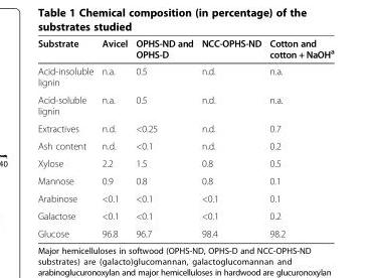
<table><thead><tr><td>Substrate</td><td>Avicel</td><td>OPHS-ND and OPHS-D</td><td>NCC-OPHS-ND</td><td>Cotton and cotton + NaOH<sup>a</sup></td></tr></thead><tbody><tr><td>Acid-insoluble lignin</td><td>n.a.</td><td>0.5</td><td>n.d.</td><td>n.a.</td></tr><tr><td>Acid-soluble lignin</td><td>n.a.</td><td>0.5</td><td>n.d.</td><td>n.a.</td></tr><tr><td>Extractives</td><td>n.d.</td><td>&lt;0.25</td><td>n.d.</td><td>0.7</td></tr><tr><td>Ash content</td><td>n.d.</td><td>&lt;0.1</td><td>n.d.</td><td>0.2</td></tr><tr><td>Xylose</td><td>2.2</td><td>1.5</td><td>0.8</td><td>0.5</td></tr><tr><td>Mannose</td><td>0.9</td><td>0.8</td><td>0.8</td><td>0.1</td></tr><tr><td>Arabinose</td><td>&lt;0.1</td><td>&lt;0.1</td><td>&lt;0.1</td><td>0.1</td></tr><tr><td>Galactose</td><td>&lt;0.1</td><td>&lt;0.1</td><td>&lt;0.1</td><td>0.2</td></tr><tr><td>Glucose</td><td>96.8</td><td>96.7</td><td>98.4</td><td>98.2</td></tr></tbody></table>